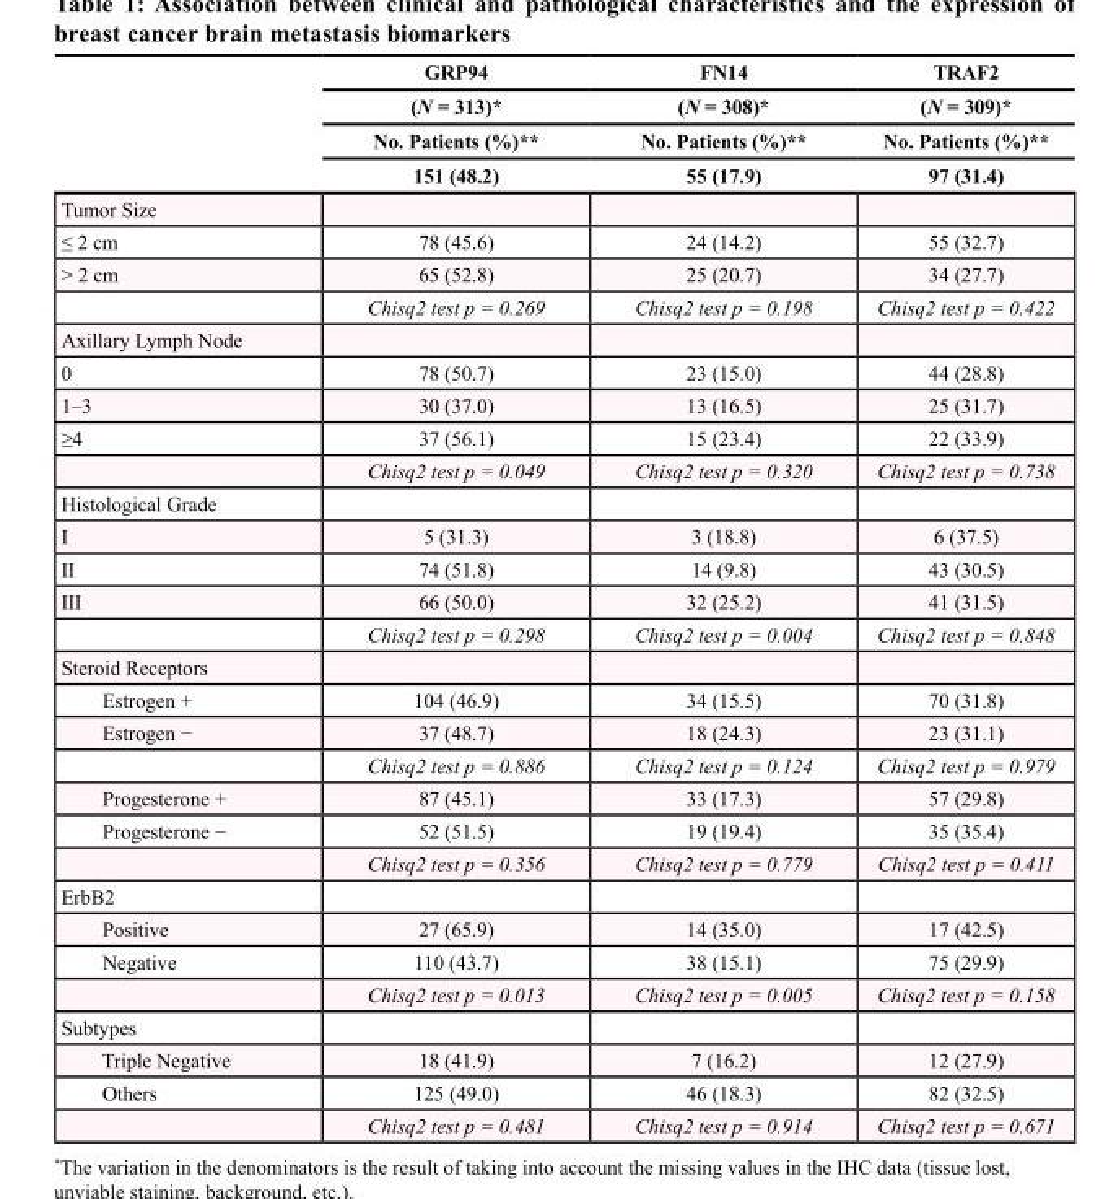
<table><thead><tr><td rowspan="4"></td><td rowspan="4">GRP94 (N = 313)* No. Patients (%)** 151 (48.2)</td><td rowspan="4">FN14 (N = 308)* No. Patients (%)** 55 (17.9)</td><td rowspan="4">TRAF2 (N = 309)* No. Patients (%)** 97 (31.4)</td></tr><tr></tr><tr></tr><tr></tr></thead><tbody><tr><td colspan="4">Tumor Size</td></tr><tr><td>≤ 2 cm</td><td>78 (45.6)</td><td>24 (14.2)</td><td>55 (32.7)</td></tr><tr><td rowspan="2">&gt; 2 cm</td><td>65 (52.8)</td><td>25 (20.7)</td><td>34 (27.7)</td></tr><tr><td>Chisq2 test p = 0.269</td><td>Chisq2 test p = 0.198</td><td>Chisq2 test p = 0.422</td></tr><tr><td colspan="4">Axillary Lymph Node</td></tr><tr><td>0</td><td>78 (50.7)</td><td>23 (15.0)</td><td>44 (28.8)</td></tr><tr><td>1–3</td><td>30 (37.0)</td><td>13 (16.5)</td><td>25 (31.7)</td></tr><tr><td rowspan="2">≥4</td><td>37 (56.1)</td><td>15 (23.4)</td><td>22 (33.9)</td></tr><tr><td>Chisq2 test p = 0.049</td><td>Chisq2 test p = 0.320</td><td>Chisq2 test p = 0.738</td></tr><tr><td colspan="4">Histological Grade</td></tr><tr><td>I</td><td>5 (31.3)</td><td>3 (18.8)</td><td>6 (37.5)</td></tr><tr><td>II</td><td>74 (51.8)</td><td>14 (9.8)</td><td>43 (30.5)</td></tr><tr><td rowspan="2">III</td><td>66 (50.0)</td><td>32 (25.2)</td><td>41 (31.5)</td></tr><tr><td>Chisq2 test p = 0.298</td><td>Chisq2 test p = 0.004</td><td>Chisq2 test p = 0.848</td></tr><tr><td colspan="4">Steroid Receptors</td></tr><tr><td>Estrogen +</td><td>104 (46.9)</td><td>34 (15.5)</td><td>70 (31.8)</td></tr><tr><td rowspan="2">Estrogen −</td><td>37 (48.7)</td><td>18 (24.3)</td><td>23 (31.1)</td></tr><tr><td>Chisq2 test p = 0.886</td><td>Chisq2 test p = 0.124</td><td>Chisq2 test p = 0.979</td></tr><tr><td>Progesterone +</td><td>87 (45.1)</td><td>33 (17.3)</td><td>57 (29.8)</td></tr><tr><td rowspan="2">Progesterone −</td><td>52 (51.5)</td><td>19 (19.4)</td><td>35 (35.4)</td></tr><tr><td>Chisq2 test p = 0.356</td><td>Chisq2 test p = 0.779</td><td>Chisq2 test p = 0.411</td></tr><tr><td colspan="4">ErbB2</td></tr><tr><td>Positive</td><td>27 (65.9)</td><td>14 (35.0)</td><td>17 (42.5)</td></tr><tr><td rowspan="2">Negative</td><td>110 (43.7)</td><td>38 (15.1)</td><td>75 (29.9)</td></tr><tr><td>Chisq2 test p = 0.013</td><td>Chisq2 test p = 0.005</td><td>Chisq2 test p = 0.158</td></tr><tr><td colspan="4">Subtypes</td></tr><tr><td>Triple Negative</td><td>18 (41.9)</td><td>7 (16.2)</td><td>12 (27.9)</td></tr><tr><td rowspan="2">Others</td><td>125 (49.0)</td><td>46 (18.3)</td><td>82 (32.5)</td></tr><tr><td>Chisq2 test p = 0.481</td><td>Chisq2 test p = 0.914</td><td>Chisq2 test p = 0.671</td></tr></tbody></table>